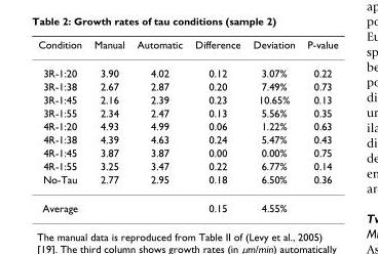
<table><thead><tr><td>Condition</td><td>Manual</td><td>Automatic</td><td>Difference</td><td>Deviation</td><td>P-value</td></tr></thead><tbody><tr><td>3R-1:20</td><td>3.90</td><td>4.02</td><td>0.12</td><td>3.07%</td><td>0.22</td></tr><tr><td>3R-1:38</td><td>2.67</td><td>2.87</td><td>0.20</td><td>7.49%</td><td>0.73</td></tr><tr><td>3R-1:45</td><td>2.16</td><td>2.39</td><td>0.23</td><td>10.65%</td><td>0.13</td></tr><tr><td>3R-1:55</td><td>2.34</td><td>2.47</td><td>0.13</td><td>5.56%</td><td>0.35</td></tr><tr><td>4R-1:20</td><td>4.93</td><td>4.99</td><td>0.06</td><td>1.22%</td><td>0.63</td></tr><tr><td>4R-1:38</td><td>4.39</td><td>4.63</td><td>0.24</td><td>5.47%</td><td>0.43</td></tr><tr><td>4R-1:45</td><td>3.87</td><td>3.87</td><td>0.00</td><td>0.00%</td><td>0.75</td></tr><tr><td>4R-1:55</td><td>3.25</td><td>3.47</td><td>0.22</td><td>6.77%</td><td>0.14</td></tr><tr><td>No-Tau</td><td>2.77</td><td>2.95</td><td>0.18</td><td>6.50%</td><td>0.36</td></tr><tr><td>Average</td><td></td><td></td><td>0.15</td><td>4.55%</td><td></td></tr></tbody></table>